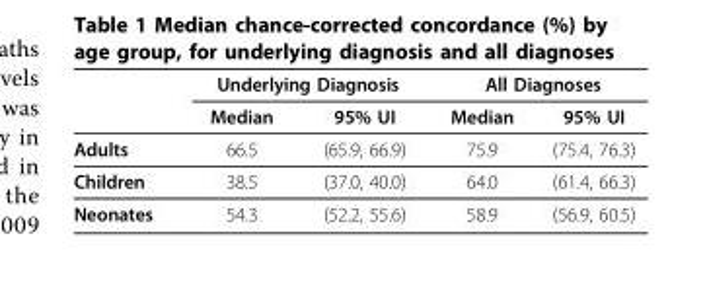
<table><thead><tr><td rowspan="2"></td><td colspan="2">Underlying Diagnosis</td><td colspan="2">All Diagnoses</td></tr><tr><td>Median</td><td>95% UI</td><td>Median</td><td>95% UI</td></tr></thead><tbody><tr><td>Adults</td><td>66.5</td><td>(65.9, 66.9)</td><td>75.9</td><td>(75.4, 76.3)</td></tr><tr><td>Children</td><td>38.5</td><td>(37.0, 40.0)</td><td>64.0</td><td>(61.4, 66.3)</td></tr><tr><td>Neonates</td><td>54.3</td><td>(52.2, 55.6)</td><td>58.9</td><td>(56.9, 60.5)</td></tr></tbody></table>